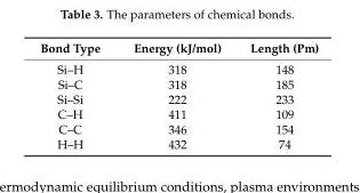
<table><thead><tr><td>Bond Type</td><td>Energy (kJ/mol)</td><td>Length (Pm)</td></tr></thead><tbody><tr><td>Si–H</td><td>318</td><td>148</td></tr><tr><td>Si–C</td><td>318</td><td>185</td></tr><tr><td>Si–Si</td><td>222</td><td>233</td></tr><tr><td>C–H</td><td>411</td><td>109</td></tr><tr><td>C–C</td><td>346</td><td>154</td></tr><tr><td>H–H</td><td>432</td><td>74</td></tr></tbody></table>